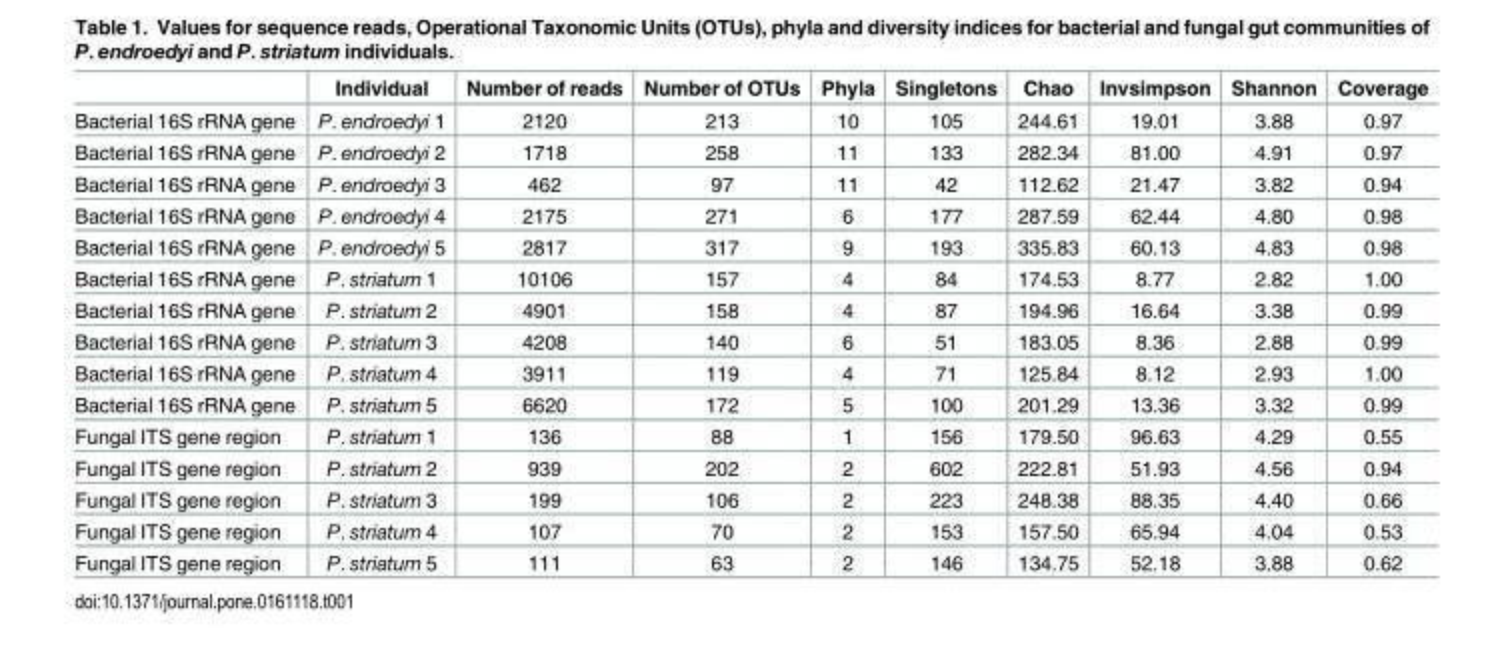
<table><thead><tr><td></td><td>Individual</td><td>Number of reads</td><td>Number of OTUs</td><td>Phyla</td><td>Singletons</td><td>Chao</td><td>Invsimpson</td><td>Shannon</td><td>Coverage</td></tr></thead><tbody><tr><td>Bacterial 16S rRNA gene</td><td>P. endroedyi 1</td><td>2120</td><td>213</td><td>10</td><td>105</td><td>244.61</td><td>19.01</td><td>3.88</td><td>0.97</td></tr><tr><td>Bacterial 16S rRNA gene</td><td>P. endroedyi 2</td><td>1718</td><td>258</td><td>11</td><td>133</td><td>282.34</td><td>81.00</td><td>4.91</td><td>0.97</td></tr><tr><td>Bacterial 16S rRNA gene</td><td>P. endroedyi 3</td><td>462</td><td>97</td><td>11</td><td>42</td><td>112.62</td><td>21.47</td><td>3.82</td><td>0.94</td></tr><tr><td>Bacterial 16S rRNA gene</td><td>P. endroedyi 4</td><td>2175</td><td>271</td><td>6</td><td>177</td><td>287.59</td><td>62.44</td><td>4.80</td><td>0.98</td></tr><tr><td>Bacterial 16S rRNA gene</td><td>P. endroedyi 5</td><td>2817</td><td>317</td><td>9</td><td>193</td><td>335.83</td><td>60.13</td><td>4.83</td><td>0.98</td></tr><tr><td>Bacterial 16S rRNA gene</td><td>P. striatum 1</td><td>10106</td><td>157</td><td>4</td><td>84</td><td>174.53</td><td>8.77</td><td>2.82</td><td>1.00</td></tr><tr><td>Bacterial 16S rRNA gene</td><td>P. striatum 2</td><td>4901</td><td>158</td><td>4</td><td>87</td><td>194.96</td><td>16.64</td><td>3.38</td><td>0.99</td></tr><tr><td>Bacterial 16S rRNA gene</td><td>P. striatum 3</td><td>4208</td><td>140</td><td>6</td><td>51</td><td>183.05</td><td>8.36</td><td>2.88</td><td>0.99</td></tr><tr><td>Bacterial 16S rRNA gene</td><td>P. striatum 4</td><td>3911</td><td>119</td><td>4</td><td>71</td><td>125.84</td><td>8.12</td><td>2.93</td><td>1.00</td></tr><tr><td>Bacterial 16S rRNA gene</td><td>P. striatum 5</td><td>6620</td><td>172</td><td>5</td><td>100</td><td>201.29</td><td>13.36</td><td>3.32</td><td>0.99</td></tr><tr><td>Fungal ITS gene region</td><td>P. striatum 1</td><td>136</td><td>88</td><td>1</td><td>156</td><td>179.50</td><td>96.63</td><td>4.29</td><td>0.55</td></tr><tr><td>Fungal ITS gene region</td><td>P. striatum 2</td><td>939</td><td>202</td><td>2</td><td>602</td><td>222.81</td><td>51.93</td><td>4.56</td><td>0.94</td></tr><tr><td>Fungal ITS gene region</td><td>P. striatum 3</td><td>199</td><td>106</td><td>2</td><td>223</td><td>248.38</td><td>88.35</td><td>4.40</td><td>0.66</td></tr><tr><td>Fungal ITS gene region</td><td>P. striatum 4</td><td>107</td><td>70</td><td>2</td><td>153</td><td>157.50</td><td>65.94</td><td>4.04</td><td>0.53</td></tr><tr><td>Fungal ITS gene region</td><td>P. striatum 5</td><td>111</td><td>63</td><td>2</td><td>146</td><td>134.75</td><td>52.18</td><td>3.88</td><td>0.62</td></tr></tbody></table>